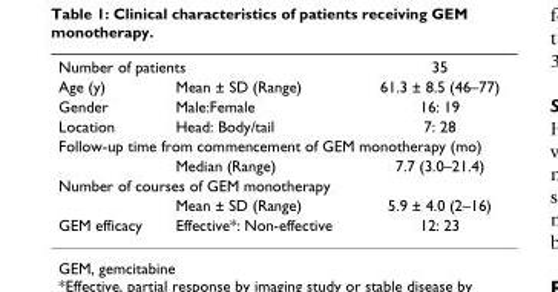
<table><tbody><tr><td colspan="2">Number of patients</td><td>35</td></tr><tr><td>Age (y)</td><td>Mean ± SD (Range)</td><td>61.3 ± 8.5 (46–77)</td></tr><tr><td>Gender</td><td>Male:Female</td><td>16: 19</td></tr><tr><td>Location</td><td>Head: Body/tail</td><td>7: 28</td></tr><tr><td colspan="3">Follow-up time from commencement of GEM monotherapy (mo)</td></tr><tr><td></td><td>Median (Range)</td><td>7.7 (3.0–21.4)</td></tr><tr><td colspan="3">Number of courses of GEM monotherapy</td></tr><tr><td></td><td>Mean ± SD (Range)</td><td>5.9 ± 4.0 (2–16)</td></tr><tr><td>GEM efficacy</td><td>Effective*: Non-effective</td><td>12: 23</td></tr></tbody></table>